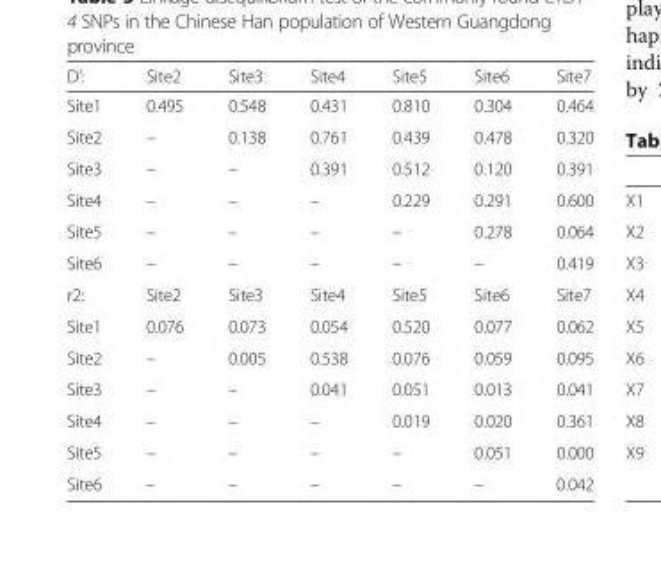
<table><thead><tr><td>D’:</td><td>Site2</td><td>Site3</td><td>Site4</td><td>Site5</td><td>Site6</td><td>Site7</td></tr></thead><tbody><tr><td>Site1</td><td>0.495</td><td>0.548</td><td>0.431</td><td>0.810</td><td>0.304</td><td>0.464</td></tr><tr><td>Site2</td><td>–</td><td>0.138</td><td>0.761</td><td>0.439</td><td>0.478</td><td>0.320</td></tr><tr><td>Site3</td><td>–</td><td>–</td><td>0.391</td><td>0.512</td><td>0.120</td><td>0.391</td></tr><tr><td>Site4</td><td>–</td><td>–</td><td>–</td><td>0.229</td><td>0.291</td><td>0.600</td></tr><tr><td>Site5</td><td>–</td><td>–</td><td>–</td><td>–</td><td>0.278</td><td>0.064</td></tr><tr><td>Site6</td><td>–</td><td>–</td><td>–</td><td>–</td><td>–</td><td>0.419</td></tr><tr><td>r2:</td><td>Site2</td><td>Site3</td><td>Site4</td><td>Site5</td><td>Site6</td><td>Site7</td></tr><tr><td>Site1</td><td>0.076</td><td>0.073</td><td>0.054</td><td>0.520</td><td>0.077</td><td>0.062</td></tr><tr><td>Site2</td><td>–</td><td>0.005</td><td>0.538</td><td>0.076</td><td>0.059</td><td>0.095</td></tr><tr><td>Site3</td><td>–</td><td>–</td><td>0.041</td><td>0.051</td><td>0.013</td><td>0.041</td></tr><tr><td>Site4</td><td>–</td><td>–</td><td>–</td><td>0.019</td><td>0.020</td><td>0.361</td></tr><tr><td>Site5</td><td>–</td><td>–</td><td>–</td><td>–</td><td>0.051</td><td>0.000</td></tr><tr><td>Site6</td><td>–</td><td>–</td><td>–</td><td>–</td><td>–</td><td>0.042</td></tr></tbody></table>